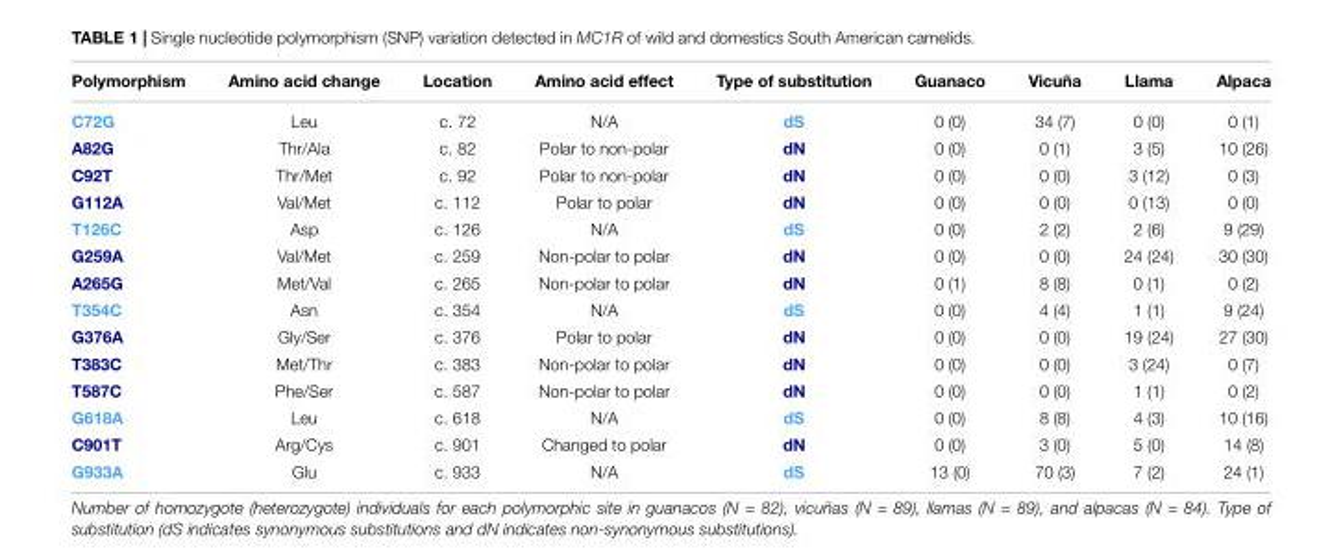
<table><thead><tr><td>Polymorphism</td><td>Amino acid change</td><td>Location</td><td>Amino acid effect</td><td>Type of substitution</td><td>Guanaco</td><td>Vicuña</td><td>Llama</td><td>Alpaca</td></tr></thead><tbody><tr><td>C72G</td><td>Leu</td><td>c. 72</td><td>N/A</td><td>dS</td><td>0 (0)</td><td>34 (7)</td><td>0 (0)</td><td>0 (1)</td></tr><tr><td>A82G</td><td>Thr/Ala</td><td>c. 82</td><td>Polar to non-polar</td><td>dN</td><td>0 (0)</td><td>0 (1)</td><td>3 (5)</td><td>10 (26)</td></tr><tr><td>C92T</td><td>Thr/Met</td><td>c. 92</td><td>Polar to non-polar</td><td>dN</td><td>0 (0)</td><td>0 (0)</td><td>3 (12)</td><td>0 (3)</td></tr><tr><td>G112A</td><td>Val/Met</td><td>c. 112</td><td>Polar to polar</td><td>dN</td><td>0 (0)</td><td>0 (0)</td><td>0 (13)</td><td>0 (0)</td></tr><tr><td>T126C</td><td>Asp</td><td>c. 126</td><td>N/A</td><td>dS</td><td>0 (0)</td><td>2 (2)</td><td>2 (6)</td><td>9 (29)</td></tr><tr><td>G259A</td><td>Val/Met</td><td>c. 259</td><td>Non-polar to polar</td><td>dN</td><td>0 (0)</td><td>0 (0)</td><td>24 (24)</td><td>30 (30)</td></tr><tr><td>A265G</td><td>Met/Val</td><td>c. 265</td><td>Non-polar to polar</td><td>dN</td><td>0 (1)</td><td>8 (8)</td><td>0 (1)</td><td>0 (2)</td></tr><tr><td>T354C</td><td>Asn</td><td>c. 354</td><td>N/A</td><td>dS</td><td>0 (0)</td><td>4 (4)</td><td>1 (1)</td><td>9 (24)</td></tr><tr><td>G376A</td><td>Gly/Ser</td><td>c. 376</td><td>Polar to polar</td><td>dN</td><td>0 (0)</td><td>0 (0)</td><td>19 (24)</td><td>27 (30)</td></tr><tr><td>T383C</td><td>Met/Thr</td><td>c. 383</td><td>Non-polar to polar</td><td>dN</td><td>0 (0)</td><td>0 (0)</td><td>3 (24)</td><td>0 (7)</td></tr><tr><td>T587C</td><td>Phe/Ser</td><td>c. 587</td><td>Non-polar to polar</td><td>dN</td><td>0 (0)</td><td>0 (0)</td><td>1 (1)</td><td>0 (2)</td></tr><tr><td>G618A</td><td>Leu</td><td>c. 618</td><td>N/A</td><td>dS</td><td>0 (0)</td><td>8 (8)</td><td>4 (3)</td><td>10 (16)</td></tr><tr><td>C901T</td><td>Arg/Cys</td><td>c. 901</td><td>Changed to polar</td><td>dN</td><td>0 (0)</td><td>3 (0)</td><td>5 (0)</td><td>14 (8)</td></tr><tr><td>G933A</td><td>Glu</td><td>c. 933</td><td>N/A</td><td>dS</td><td>13 (0)</td><td>70 (3)</td><td>7 (2)</td><td>24 (1)</td></tr></tbody></table>